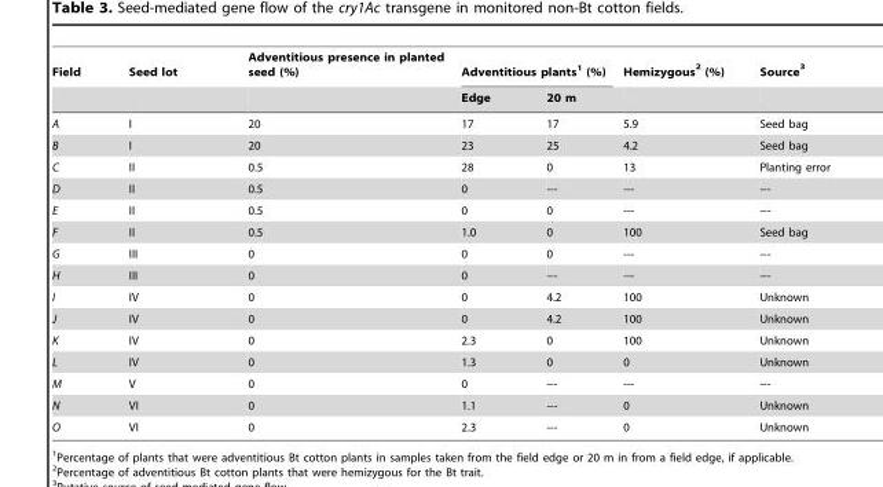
<table><thead><tr><td rowspan="2">Field</td><td rowspan="2">Seed lot</td><td rowspan="2">Adventitious presence in planted seed (%)</td><td colspan="2">Adventitious plants<sup>1</sup> (%)</td><td rowspan="2">Hemizygous <sup>2</sup> (%)</td><td rowspan="2">Source <sup>3</sup></td></tr><tr><td>Edge</td><td>20 m</td></tr></thead><tbody><tr><td>A</td><td>I</td><td>20</td><td>17</td><td>17</td><td>5.9</td><td>Seed bag</td></tr><tr><td>B</td><td>I</td><td>20</td><td>23</td><td>25</td><td>4.2</td><td>Seed bag</td></tr><tr><td>C</td><td>II</td><td>0.5</td><td>28</td><td>0</td><td>13</td><td>Planting error</td></tr><tr><td>D</td><td>II</td><td>0.5</td><td>0</td><td>---</td><td>---</td><td>---</td></tr><tr><td>E</td><td>II</td><td>0.5</td><td>0</td><td>0</td><td>---</td><td>---</td></tr><tr><td>F</td><td>II</td><td>0.5</td><td>1.0</td><td>0</td><td>100</td><td>Seed bag</td></tr><tr><td>G</td><td>III</td><td>0</td><td>0</td><td>0</td><td>---</td><td>---</td></tr><tr><td>H</td><td>III</td><td>0</td><td>0</td><td>---</td><td>---</td><td>---</td></tr><tr><td>I</td><td>IV</td><td>0</td><td>0</td><td>4.2</td><td>100</td><td>Unknown</td></tr><tr><td>J</td><td>IV</td><td>0</td><td>0</td><td>4.2</td><td>100</td><td>Unknown</td></tr><tr><td>K</td><td>IV</td><td>0</td><td>2.3</td><td>0</td><td>100</td><td>Unknown</td></tr><tr><td>L</td><td>IV</td><td>0</td><td>1.3</td><td>0</td><td>0</td><td>Unknown</td></tr><tr><td>M</td><td>V</td><td>0</td><td>0</td><td>---</td><td>---</td><td>---</td></tr><tr><td>N</td><td>VI</td><td>0</td><td>1.1</td><td>---</td><td>0</td><td>Unknown</td></tr><tr><td>O</td><td>VI</td><td>0</td><td>2.3</td><td>---</td><td>0</td><td>Unknown</td></tr></tbody></table>